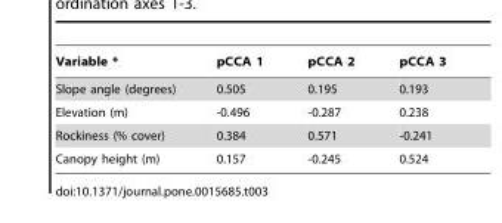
<table><thead><tr><td>Variable *</td><td>pCCA 1</td><td>pCCA 2</td><td>pCCA 3</td></tr></thead><tbody><tr><td>Slope angle (degrees)</td><td>0.505</td><td>0.195</td><td>0.193</td></tr><tr><td>Elevation (m)</td><td>-0.496</td><td>-0.287</td><td>0.238</td></tr><tr><td>Rockiness (% cover)</td><td>0.384</td><td>0.571</td><td>-0.241</td></tr><tr><td>Canopy height (m)</td><td>0.157</td><td>-0.245</td><td>0.524</td></tr></tbody></table>